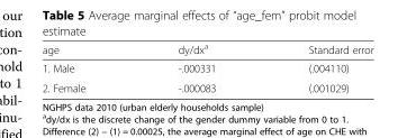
<table><thead><tr><td>age</td><td>dy/dx<sup>a</sup></td><td>Standard error</td></tr></thead><tbody><tr><td>1. Male</td><td>-.000331</td><td>(.004110)</td></tr><tr><td>2. Female</td><td>-.000083</td><td>(.001029)</td></tr></tbody></table>